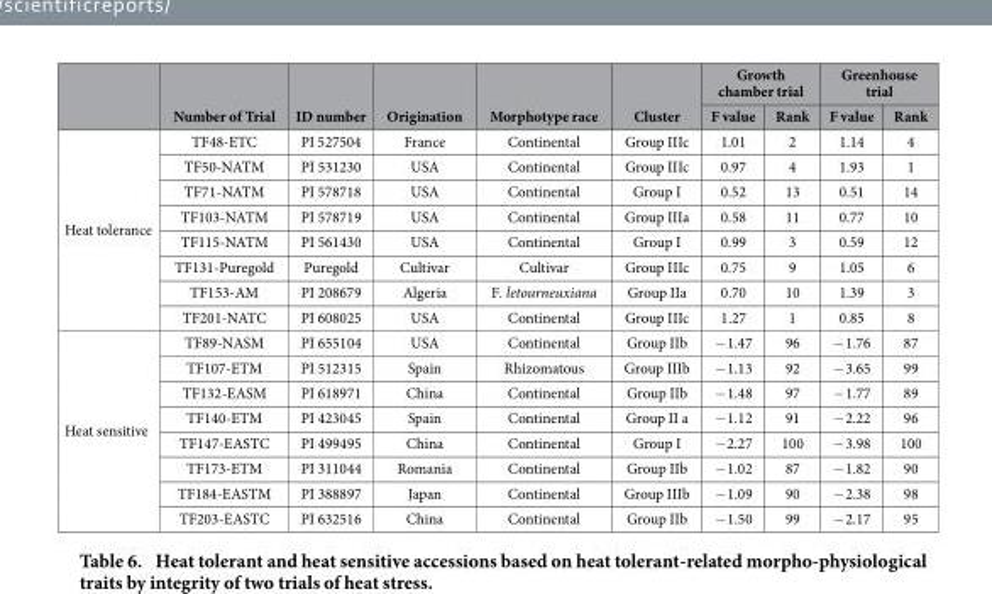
<table><thead><tr><td rowspan="2"></td><td rowspan="2">Number of Trial</td><td rowspan="2">ID number</td><td rowspan="2">Origination</td><td rowspan="2">Morphotype race</td><td rowspan="2">Cluster</td><td colspan="2">Growth chamber trial</td><td colspan="2">Greenhouse trial</td></tr><tr><td>F value</td><td>Rank</td><td>F value</td><td>Rank</td></tr></thead><tbody><tr><td rowspan="8">Heat tolerance</td><td>TF48-ETC</td><td>PI 527504</td><td>France</td><td>Continental</td><td>Group IIIc</td><td>1.01</td><td>2</td><td>1.14</td><td>4</td></tr><tr><td>TF50-NATM</td><td>PI 531230</td><td>USA</td><td>Continental</td><td>Group IIIc</td><td>0.97</td><td>4</td><td>1.93</td><td>1</td></tr><tr><td>TF71-NATM</td><td>PI 578718</td><td>USA</td><td>Continental</td><td>Group I</td><td>0.52</td><td>13</td><td>0.51</td><td>14</td></tr><tr><td>TF103-NATM</td><td>PI 578719</td><td>USA</td><td>Continental</td><td>Group IIIa</td><td>0.58</td><td>11</td><td>0.77</td><td>10</td></tr><tr><td>TF115-NATM</td><td>PI 561430</td><td>USA</td><td>Continental</td><td>Group I</td><td>0.99</td><td>3</td><td>0.59</td><td>12</td></tr><tr><td>TF131-Puregold</td><td>Puregold</td><td>Cultivar</td><td>Cultivar</td><td>Group IIIc</td><td>0.75</td><td>9</td><td>1.05</td><td>6</td></tr><tr><td>TF153-AM</td><td>PI 208679</td><td>Algeria</td><td>F. letourneuxiana</td><td>Group IIa</td><td>0.70</td><td>10</td><td>1.39</td><td>3</td></tr><tr><td>TF201-NATC</td><td>PI 608025</td><td>USA</td><td>Continental</td><td>Group IIIc</td><td>1.27</td><td>1</td><td>0.85</td><td>8</td></tr><tr><td rowspan="8">Heat sensitive</td><td>TF89-NASM</td><td>PI 655104</td><td>USA</td><td>Continental</td><td>Group IIb</td><td>− 1.47</td><td>96</td><td>− 1.76</td><td>87</td></tr><tr><td>TF107-ETM</td><td>PI 512315</td><td>Spain</td><td>Rhizomatous</td><td>Group IIIb</td><td>− 1.13</td><td>92</td><td>− 3.65</td><td>99</td></tr><tr><td>TF132-EASM</td><td>PI 618971</td><td>China</td><td>Continental</td><td>Group IIb</td><td>− 1.48</td><td>97</td><td>− 1.77</td><td>89</td></tr><tr><td>TF140-ETM</td><td>PI 423045</td><td>Spain</td><td>Continental</td><td>Group II a</td><td>− 1.12</td><td>91</td><td>− 2.22</td><td>96</td></tr><tr><td>TF147-EASTC</td><td>PI 499495</td><td>China</td><td>Continental</td><td>Group I</td><td>− 2.27</td><td>100</td><td>− 3.98</td><td>100</td></tr><tr><td>TF173-ETM</td><td>PI 311044</td><td>Romania</td><td>Continental</td><td>Group IIb</td><td>− 1.02</td><td>87</td><td>− 1.82</td><td>90</td></tr><tr><td>TF184-EASTM</td><td>PI 388897</td><td>Japan</td><td>Continental</td><td>Group IIIb</td><td>− 1.09</td><td>90</td><td>− 2.38</td><td>98</td></tr><tr><td>TF203-EASTC</td><td>PI 632516</td><td>China</td><td>Continental</td><td>Group IIb</td><td>− 1.50</td><td>99</td><td>− 2.17</td><td>95</td></tr></tbody></table>